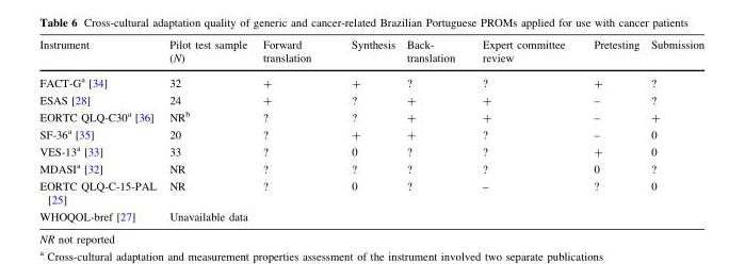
<table><thead><tr><td>Instrument</td><td>Pilot test sample (N)</td><td>Forward translation</td><td>Synthesis</td><td>Back- translation</td><td>Expert committee review</td><td>Pretesting</td><td>Submission</td></tr></thead><tbody><tr><td>FACT-G<sup>a</sup> [34]</td><td>32</td><td>+</td><td>+</td><td>?</td><td>?</td><td>+</td><td>?</td></tr><tr><td>ESAS [28]</td><td>24</td><td>+</td><td>?</td><td>+</td><td>+</td><td>–</td><td>?</td></tr><tr><td>EORTC QLQ-C30<sup>a</sup> [36]</td><td>NR<sup>b</sup></td><td>?</td><td>?</td><td>+</td><td>+</td><td>–</td><td>+</td></tr><tr><td>SF-36<sup>a</sup> [35]</td><td>20</td><td>?</td><td>+</td><td>+</td><td>?</td><td>–</td><td>0</td></tr><tr><td>VES-13<sup>a</sup> [33]</td><td>33</td><td>?</td><td>0</td><td>?</td><td>?</td><td>+</td><td>0</td></tr><tr><td>MDASI<sup>a</sup> [32]</td><td>NR</td><td>?</td><td>?</td><td>?</td><td>?</td><td>0</td><td>?</td></tr><tr><td>EORTC QLQ-C-15-PAL [25]</td><td>NR</td><td>?</td><td>0</td><td>?</td><td>–</td><td>?</td><td>0</td></tr><tr><td>WHOQOL-bref [27]</td><td colspan="7">Unavailable data</td></tr></tbody></table>